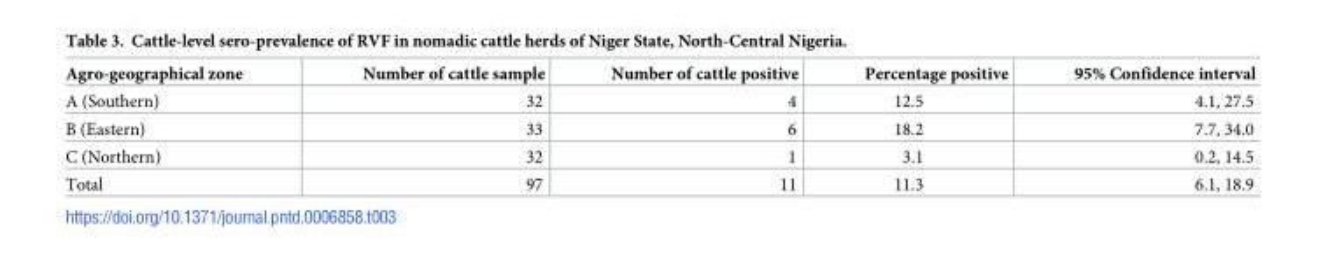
<table><thead><tr><td>Agro-geographical zone</td><td>Number of cattle sample</td><td>Number of cattle positive</td><td>Percentage positive</td><td>95% Confidence interval</td></tr></thead><tbody><tr><td>A (Southern)</td><td>32</td><td>4</td><td>12.5</td><td>4.1, 27.5</td></tr><tr><td>B (Eastern)</td><td>33</td><td>6</td><td>18.2</td><td>7.7, 34.0</td></tr><tr><td>C (Northern)</td><td>32</td><td>1</td><td>3.1</td><td>0.2, 14.5</td></tr><tr><td>Total</td><td>97</td><td>11</td><td>11.3</td><td>6.1, 18.9</td></tr></tbody></table>